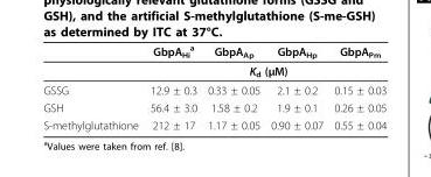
<table><thead><tr><td></td><td>GbpA<sub>Hi</sub> <sup>a</sup></td><td>GbpA<sub>Ap</sub></td><td>GbpA<sub>Hp</sub></td><td>GbpA<sub>Pm</sub></td></tr></thead><tbody><tr><td></td><td colspan="4">K<sub>d</sub> (μM)</td></tr><tr><td>GSSG</td><td>12.9 ± 0.3</td><td>0.33 ± 0.05</td><td>2.1 ± 0.2</td><td>0.15 ± 0.03</td></tr><tr><td>GSH</td><td>56.4 ± 3.0</td><td>1.58 ± 0.2</td><td>1.9 ± 0.1</td><td>0.26 ± 0.05</td></tr><tr><td>S-methylglutathione</td><td>212 ± 17</td><td>1.17 ± 0.05</td><td>0.90 ± 0.07</td><td>0.55 ± 0.04</td></tr></tbody></table>